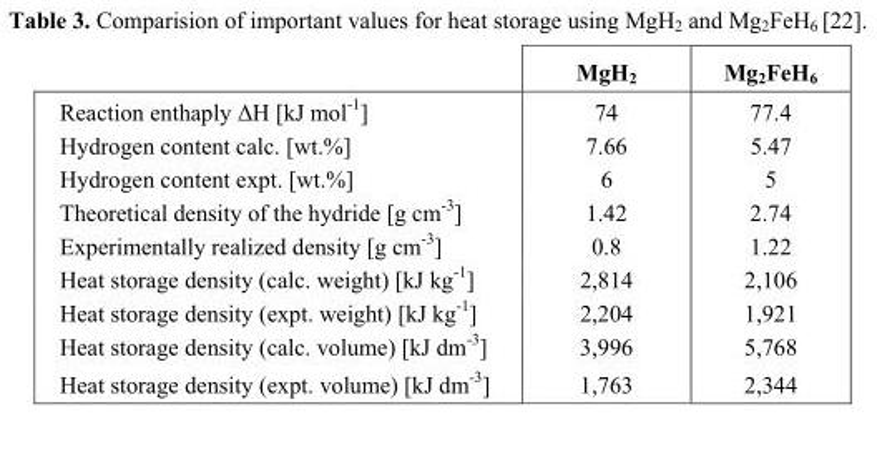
<table><thead><tr><td></td><td>MgH<sub>2</sub></td><td>Mg<sub>2</sub>FeH<sub>6</sub></td></tr></thead><tbody><tr><td>Reaction enthaply ΔH [kJ mol<sup>-1</sup>]</td><td>74</td><td>77.4</td></tr><tr><td>Hydrogen content calc. [wt.%]</td><td>7.66</td><td>5.47</td></tr><tr><td>Hydrogen content expt. [wt.%]</td><td>6</td><td>5</td></tr><tr><td>Theoretical density of the hydride [g cm<sup>-3</sup>]</td><td>1.42</td><td>2.74</td></tr><tr><td>Experimentally realized density [g cm<sup>-3</sup>]</td><td>0.8</td><td>1.22</td></tr><tr><td>Heat storage density (calc. weight) [kJ kg<sup>-1</sup>]</td><td>2,814</td><td>2,106</td></tr><tr><td>Heat storage density (expt. weight) [kJ kg<sup>-1</sup>]</td><td>2,204</td><td>1,921</td></tr><tr><td>Heat storage density (calc. volume) [kJ dm<sup>-3</sup>]</td><td>3,996</td><td>5,768</td></tr><tr><td>Heat storage density (expt. volume) [kJ dm<sup>-3</sup>]</td><td>1,763</td><td>2,344</td></tr></tbody></table>